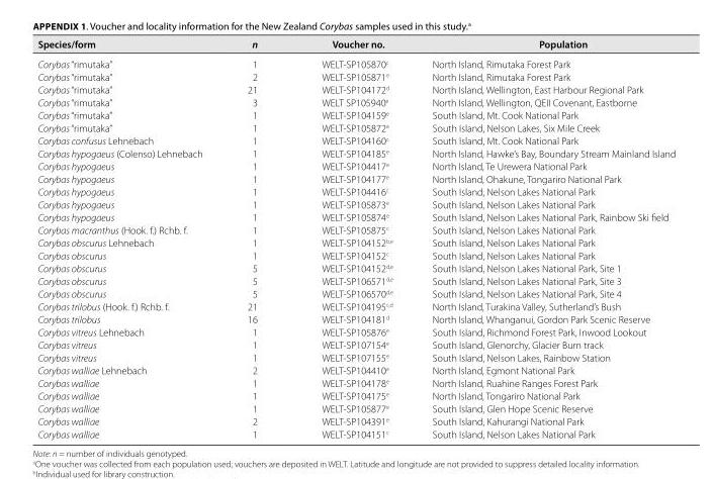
<table><thead><tr><td>Species/form</td><td>n</td><td>Voucher no.</td><td>Population</td></tr></thead><tbody><tr><td>Corybas “rimutaka”</td><td>1</td><td>WELT- SP105870<sup>c</sup></td><td>North Island, Rimutaka Forest Park</td></tr><tr><td>Corybas “rimutaka”</td><td>2</td><td>WELT- SP105871<sup>e</sup></td><td>North Island, Rimutaka Forest Park</td></tr><tr><td>Corybas “rimutaka”</td><td>21</td><td>WELT- SP104172<sup>d</sup></td><td>North Island, Wellington, East Harbour Regional Park</td></tr><tr><td>Corybas “rimutaka”</td><td>3</td><td>WELT SP105940<sup>e</sup></td><td>North Island, Wellington, QEII Covenant, Eastborne</td></tr><tr><td>Corybas “rimutaka”</td><td>1</td><td>WELT- SP104159<sup>e</sup></td><td>South Island, Mt. Cook National Park</td></tr><tr><td>Corybas “rimutaka”</td><td>1</td><td>WELT- SP105872<sup>e</sup></td><td>South Island, Nelson Lakes, Six Mile Creek</td></tr><tr><td>Corybas confusus Lehnebach</td><td>1</td><td>WELT- SP104160<sup>c</sup></td><td>South Island, Mt. Cook National Park</td></tr><tr><td>Corybas hypogaeus (Colenso) Lehnebach</td><td>1</td><td>WELT- SP104185<sup>e</sup></td><td>North Island, Hawke’s Bay, Boundary Stream Mainland Island</td></tr><tr><td>Corybas hypogaeus</td><td>1</td><td>WELT- SP104417<sup>e</sup></td><td>North Island, Te Urewera National Park</td></tr><tr><td>Corybas hypogaeus</td><td>1</td><td>WELT- SP104177<sup>e</sup></td><td>North Island, Ohakune, Tongariro National Park</td></tr><tr><td>Corybas hypogaeus</td><td>1</td><td>WELT- SP104416<sup>c</sup></td><td>South Island, Nelson Lakes National Park</td></tr><tr><td>Corybas hypogaeus</td><td>1</td><td>WELT- SP105873<sup>e</sup></td><td>South Island, Nelson Lakes National Park</td></tr><tr><td>Corybas hypogaeus</td><td>1</td><td>WELT- SP105874<sup>e</sup></td><td>South Island, Nelson Lakes National Park, Rainbow Ski field</td></tr><tr><td>Corybas macranthus (Hook. f.) Rchb. f.</td><td>1</td><td>WELT- SP105875<sup>c</sup></td><td>South Island, Nelson Lakes National Park</td></tr><tr><td>Corybas obscurus Lehnebach</td><td>1</td><td>WELT- SP104152<sup>b,</sup>e</td><td>South Island, Nelson Lakes National Park</td></tr><tr><td>Corybas obscurus</td><td>1</td><td>WELT- SP104152<sup>c</sup></td><td>South Island, Nelson Lakes National Park</td></tr><tr><td>Corybas obscurus</td><td>5</td><td>WELT- SP104152<sup>d,</sup>e</td><td>South Island, Nelson Lakes National Park, Site 1</td></tr><tr><td>Corybas obscurus</td><td>5</td><td>WELT- SP106571<sup>d,</sup>e</td><td>South Island, Nelson Lakes National Park, Site 3</td></tr><tr><td>Corybas obscurus</td><td>5</td><td>WELT- SP106570<sup>d,</sup>e</td><td>South Island, Nelson Lakes National Park, Site 4</td></tr><tr><td>Corybas trilobus (Hook. f.) Rchb. f.</td><td>21</td><td>WELT- SP104195<sup>c,</sup>d</td><td>North Island, Turakina Valley, Sutherland’s Bush</td></tr><tr><td>Corybas trilobus</td><td>16</td><td>WELT- SP104181<sup>d</sup></td><td>North Island, Whanganui, Gordon Park Scenic Reserve</td></tr><tr><td>Corybas vitreus Lehnebach</td><td>1</td><td>WELT- SP105876<sup>e</sup></td><td>South Island, Richmond Forest Park, Inwood Lookout</td></tr><tr><td>Corybas vitreus</td><td>1</td><td>WELT- SP107154<sup>e</sup></td><td>South Island, Glenorchy, Glacier Burn track</td></tr><tr><td>Corybas vitreus</td><td>1</td><td>WELT- SP107155<sup>e</sup></td><td>South Island, Nelson Lakes, Rainbow Station</td></tr><tr><td>Corybas walliae Lehnebach</td><td>2</td><td>WELT- SP104410<sup>e</sup></td><td>North Island, Egmont National Park</td></tr><tr><td>Corybas walliae</td><td>1</td><td>WELT- SP104178<sup>e</sup></td><td>North Island, Ruahine Ranges Forest Park</td></tr><tr><td>Corybas walliae</td><td>1</td><td>WELT- SP104175<sup>e</sup></td><td>North Island, Tongariro National Park</td></tr><tr><td>Corybas walliae</td><td>1</td><td>WELT- SP105877<sup>e</sup></td><td>South Island, Glen Hope Scenic Reserve</td></tr><tr><td>Corybas walliae</td><td>2</td><td>WELT- SP104391<sup>e</sup></td><td>South Island, Kahurangi National Park</td></tr><tr><td>Corybas walliae</td><td>1</td><td>WELT- SP104151<sup>c</sup></td><td>South Island, Nelson Lakes National Park</td></tr></tbody></table>